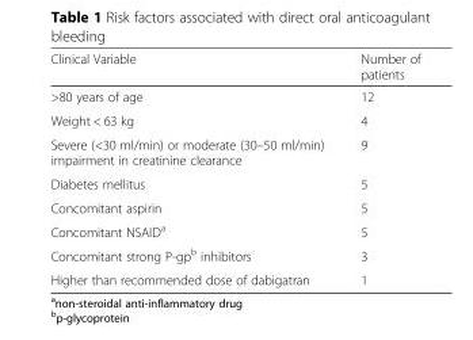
<table><thead><tr><td>Clinical Variable</td><td>Number of patients</td></tr></thead><tbody><tr><td>&gt;80 years of age</td><td>12</td></tr><tr><td>Weight &lt; 63 kg</td><td>4</td></tr><tr><td>Severe (&lt;30 ml/min) or moderate (30–50 ml/min) impairment in creatinine clearance</td><td>9</td></tr><tr><td>Diabetes mellitus</td><td>5</td></tr><tr><td>Concomitant aspirin</td><td>5</td></tr><tr><td>Concomitant NSAID<sup>a</sup></td><td>5</td></tr><tr><td>Concomitant strong P-gp<sup>b</sup> inhibitors</td><td>3</td></tr><tr><td>Higher than recommended dose of dabigatran</td><td>1</td></tr></tbody></table>